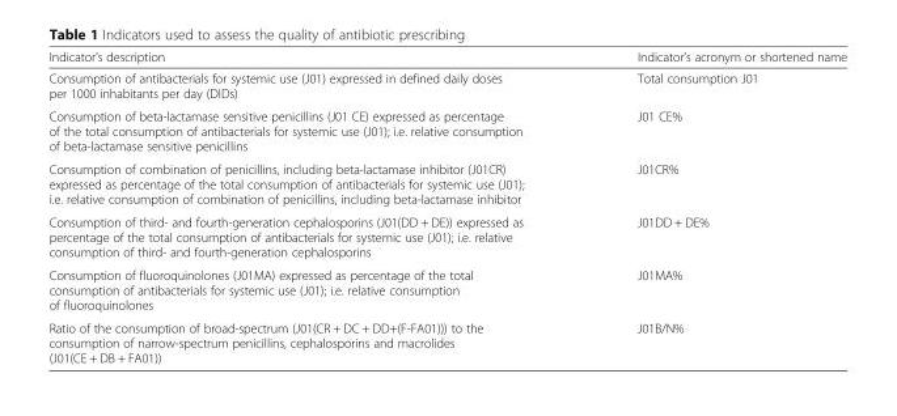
<table><thead><tr><td>Indicator’s description</td><td>Indicator’s acronym or shortened name</td></tr></thead><tbody><tr><td>Consumption of antibacterials for systemic use (J01) expressed in defined daily doses per 1000 inhabitants per day (DIDs)</td><td>Total consumption J01</td></tr><tr><td>Consumption of beta-lactamase sensitive penicillins (J01 CE) expressed as percentage of the total consumption of antibacterials for systemic use (J01); i.e. relative consumption of beta-lactamase sensitive penicillins</td><td>J01 CE%</td></tr><tr><td>Consumption of combination of penicillins, including beta-lactamase inhibitor (J01CR) expressed as percentage of the total consumption of antibacterials for systemic use (J01); i.e. relative consumption of combination of penicillins, including beta-lactamase inhibitor</td><td>J01CR%</td></tr><tr><td>Consumption of third- and fourth-generation cephalosporins (J01(DD + DE)) expressed as percentage of the total consumption of antibacterials for systemic use (J01); i.e. relative consumption of third- and fourth-generation cephalosporins</td><td>J01DD + DE%</td></tr><tr><td>Consumption of fluoroquinolones (J01MA) expressed as percentage of the total consumption of antibacterials for systemic use (J01); i.e. relative consumption of fluoroquinolones</td><td>J01MA%</td></tr><tr><td>Ratio of the consumption of broad-spectrum (J01(CR + DC + DD+(F-FA01))) to the consumption of narrow-spectrum penicillins, cephalosporins and macrolides (J01(CE + DB + FA01))</td><td>J01B/N%</td></tr></tbody></table>